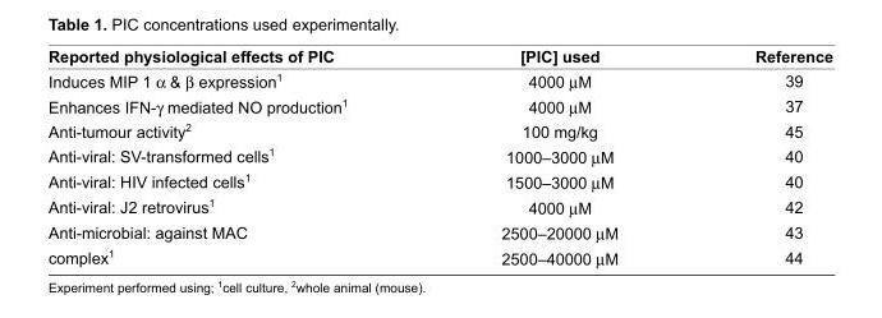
<table><thead><tr><td>Reported physiological effects of PIC</td><td>[PIC] used</td><td>Reference</td></tr></thead><tbody><tr><td>Induces MIP 1 α &amp; β expression<sup>1</sup></td><td>4000 μM</td><td>39</td></tr><tr><td>Enhances IFN-γ mediated NO production<sup>1</sup></td><td>4000 μM</td><td>37</td></tr><tr><td>Anti-tumour activity<sup>2</sup></td><td>100 mg/kg</td><td>45</td></tr><tr><td>Anti-viral: SV-transformed cells<sup>1</sup></td><td>1000–3000 μM</td><td>40</td></tr><tr><td>Anti-viral: HIV infected cells<sup>1</sup></td><td>1500–3000 μM</td><td>40</td></tr><tr><td>Anti-viral: J2 retrovirus<sup>1</sup></td><td>4000 μM</td><td>42</td></tr><tr><td>Anti-microbial: against MAC</td><td>2500–20000 μM</td><td>43</td></tr><tr><td>complex<sup>1</sup></td><td>2500–40000 μM</td><td>44</td></tr></tbody></table>